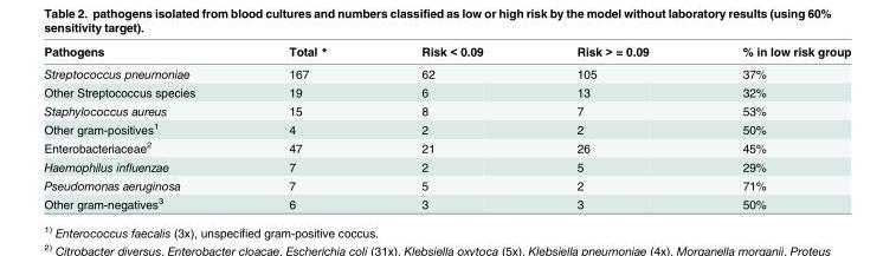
<table><thead><tr><td>Pathogens</td><td>Total *</td><td>Risk &lt; 0.09</td><td>Risk &gt; = 0.09</td><td>% in low risk group</td></tr></thead><tbody><tr><td>Streptococcus pneumoniae</td><td>167</td><td>62</td><td>105</td><td>37%</td></tr><tr><td>Other Streptococcus species</td><td>19</td><td>6</td><td>13</td><td>32%</td></tr><tr><td>Staphylococcus aureus</td><td>15</td><td>8</td><td>7</td><td>53%</td></tr><tr><td>Other gram-positives<sup>1</sup></td><td>4</td><td>2</td><td>2</td><td>50%</td></tr><tr><td>Enterobacteriaceae<sup>2</sup></td><td>47</td><td>21</td><td>26</td><td>45%</td></tr><tr><td>Haemophilus influenzae</td><td>7</td><td>2</td><td>5</td><td>29%</td></tr><tr><td>Pseudomonas aeruginosa</td><td>7</td><td>5</td><td>2</td><td>71%</td></tr><tr><td>Other gram-negatives<sup>3</sup></td><td>6</td><td>3</td><td>3</td><td>50%</td></tr></tbody></table>